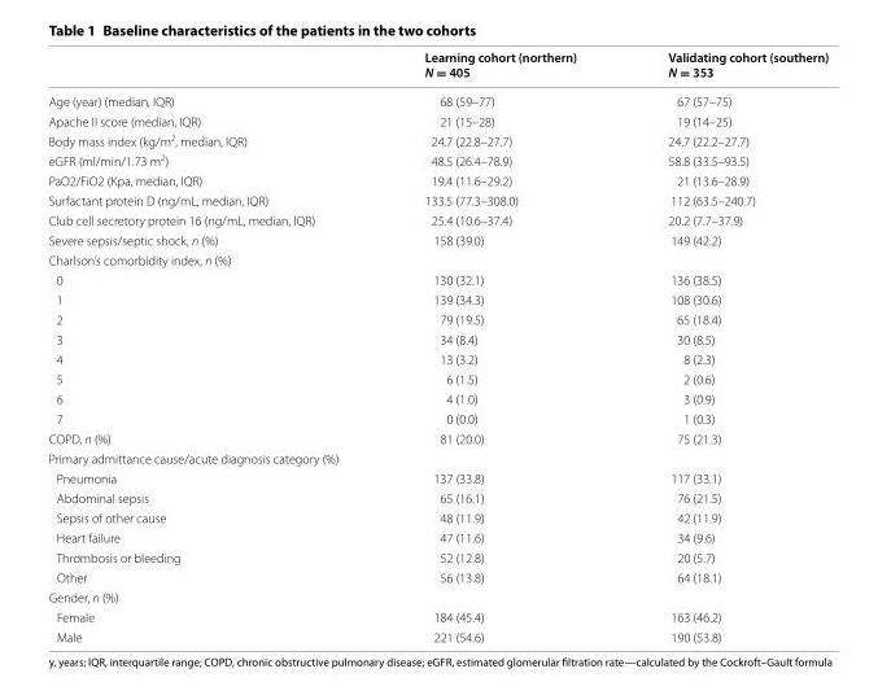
<table><thead><tr><td></td><td>Learning cohort (northern) N = 405</td><td>Validating cohort (southern) N = 353</td></tr></thead><tbody><tr><td>Age (year) (median, IQR)</td><td>68 (59–77)</td><td>67 (57–75)</td></tr><tr><td>Apache II score (median, IQR)</td><td>21 (15–28)</td><td>19 (14–25)</td></tr><tr><td>Body mass index (kg/m<sup>2</sup>, median, IQR)</td><td>24.7 (22.8–27.7)</td><td>24.7 (22.2–27.7)</td></tr><tr><td>eGFR (ml/min/1.73 m<sup>2</sup>)</td><td>48.5 (26.4–78.9)</td><td>58.8 (33.5–93.5)</td></tr><tr><td>PaO2/FiO2 (Kpa, median, IQR)</td><td>19.4 (11.6–29.2)</td><td>21 (13.6–28.9)</td></tr><tr><td>Surfactant protein D (ng/mL, median, IQR)</td><td>133.5 (77.3–308.0)</td><td>112 (63.5–240.7)</td></tr><tr><td>Club cell secretory protein 16 (ng/mL, median, IQR)</td><td>25.4 (10.6–37.4)</td><td>20.2 (7.7–37.9)</td></tr><tr><td>Severe sepsis/septic shock, n (%)</td><td>158 (39.0)</td><td>149 (42.2)</td></tr><tr><td colspan="3">Charlson’s comorbidity index, n (%)</td></tr><tr><td>0</td><td>130 (32.1)</td><td>136 (38.5)</td></tr><tr><td>1</td><td>139 (34.3)</td><td>108 (30.6)</td></tr><tr><td>2</td><td>79 (19.5)</td><td>65 (18.4)</td></tr><tr><td>3</td><td>34 (8.4)</td><td>30 (8.5)</td></tr><tr><td>4</td><td>13 (3.2)</td><td>8 (2.3)</td></tr><tr><td>5</td><td>6 (1.5)</td><td>2 (0.6)</td></tr><tr><td>6</td><td>4 (1.0)</td><td>3 (0.9)</td></tr><tr><td>7</td><td>0 (0.0)</td><td>1 (0.3)</td></tr><tr><td>COPD, n (%)</td><td>81 (20.0)</td><td>75 (21.3)</td></tr><tr><td colspan="3">Primary admittance cause/acute diagnosis category (%)</td></tr><tr><td>Pneumonia</td><td>137 (33.8)</td><td>117 (33.1)</td></tr><tr><td>Abdominal sepsis</td><td>65 (16.1)</td><td>76 (21.5)</td></tr><tr><td>Sepsis of other cause</td><td>48 (11.9)</td><td>42 (11.9)</td></tr><tr><td>Heart failure</td><td>47 (11.6)</td><td>34 (9.6)</td></tr><tr><td>Thrombosis or bleeding</td><td>52 (12.8)</td><td>20 (5.7)</td></tr><tr><td>Other</td><td>56 (13.8)</td><td>64 (18.1)</td></tr><tr><td colspan="3">Gender, n (%)</td></tr><tr><td>Female</td><td>184 (45.4)</td><td>163 (46.2)</td></tr><tr><td>Male</td><td>221 (54.6)</td><td>190 (53.8)</td></tr></tbody></table>